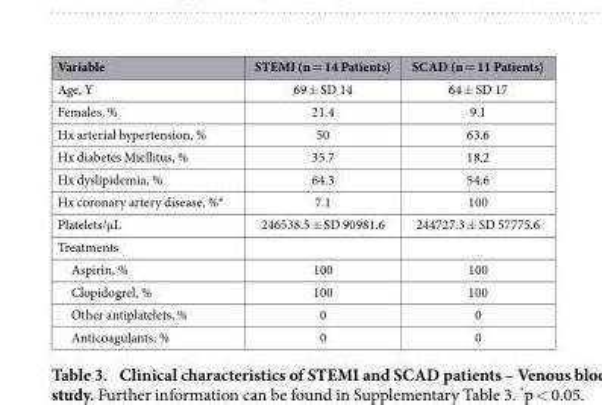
<table><thead><tr><td>Variable</td><td>STEMI (n = 14 Patients)</td><td>SCAD (n = 11 Patients)</td></tr></thead><tbody><tr><td>Age, Y</td><td>69 ± SD 14</td><td>64 ± SD 17</td></tr><tr><td>Females, %</td><td>21.4</td><td>9.1</td></tr><tr><td>Hx arterial hypertension, %</td><td>50</td><td>63.6</td></tr><tr><td>Hx diabetes Miellitus, %</td><td>35.7</td><td>18.2</td></tr><tr><td>Hx dyslipidemia, %</td><td>64.3</td><td>54.6</td></tr><tr><td>Hx coronary artery disease, %*</td><td>7.1</td><td>100</td></tr><tr><td>Platelets/μ L</td><td>246538.5 ± SD 90981.6</td><td>244727.3 ± SD 57775.6</td></tr><tr><td colspan="3">Treatments</td></tr><tr><td>Aspirin, %</td><td>100</td><td>100</td></tr><tr><td>Clopidogrel, %</td><td>100</td><td>100</td></tr><tr><td>Other antiplatelets, %</td><td>0</td><td>0</td></tr><tr><td>Anticoagulants, %</td><td>0</td><td>0</td></tr></tbody></table>